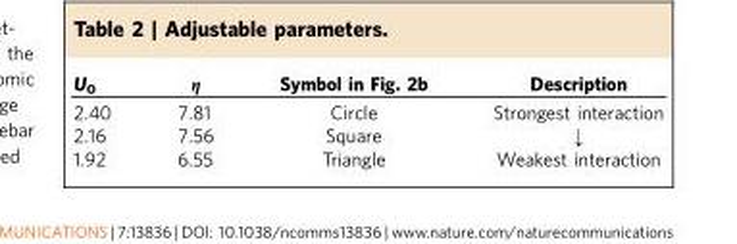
<table><thead><tr><td>U<sub>0</sub></td><td>η</td><td>Symbol in Fig. 2b</td><td>Description</td></tr></thead><tbody><tr><td>2.40</td><td>7.81</td><td>Circle</td><td>Strongest interaction</td></tr><tr><td>2.16</td><td>7.56</td><td>Square</td><td>↓</td></tr><tr><td>1.92</td><td>6.55</td><td>Triangle</td><td>Weakest interaction</td></tr></tbody></table>